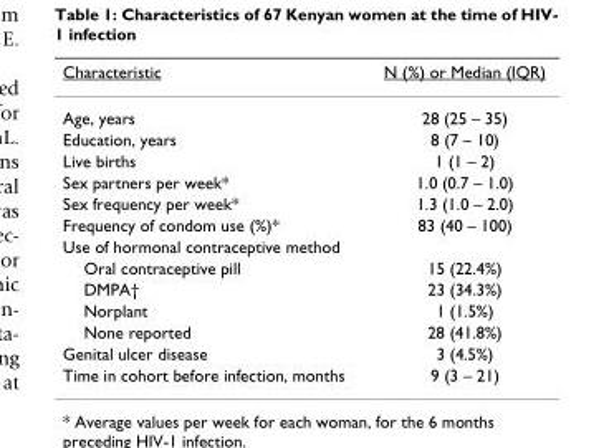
<table><thead><tr><td>Characteristic</td><td>N (%) or Median (IQR)</td></tr></thead><tbody><tr><td>Age, years</td><td>28 (25 – 35)</td></tr><tr><td>Education, years</td><td>8 (7 – 10)</td></tr><tr><td>Live births</td><td>1 (1 – 2)</td></tr><tr><td>Sex partners per week*</td><td>1.0 (0.7 – 1.0)</td></tr><tr><td>Sex frequency per week*</td><td>1.3 (1.0 – 2.0)</td></tr><tr><td>Frequency of condom use (%)*</td><td>83 (40 – 100)</td></tr><tr><td colspan="2">Use of hormonal contraceptive method</td></tr><tr><td>Oral contraceptive pill</td><td>15 (22.4%)</td></tr><tr><td>DMPA†</td><td>23 (34.3%)</td></tr><tr><td>Norplant</td><td>1 (1.5%)</td></tr><tr><td>None reported</td><td>28 (41.8%)</td></tr><tr><td>Genital ulcer disease</td><td>3 (4.5%)</td></tr><tr><td>Time in cohort before infection, months</td><td>9 (3 – 21)</td></tr></tbody></table>